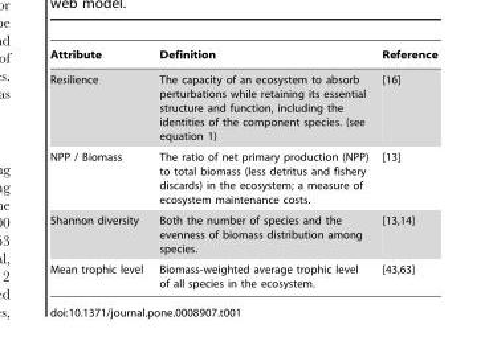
<table><thead><tr><td>Attribute</td><td>Definition</td><td>Reference</td></tr></thead><tbody><tr><td>Resilience</td><td>The capacity of an ecosystem to absorb perturbations while retaining its essential structure and function, including the identities of the component species. (see equation 1)</td><td>[16]</td></tr><tr><td>NPP / Biomass</td><td>The ratio of net primary production (NPP) to total biomass (less detritus and fishery discards) in the ecosystem; a measure of ecosystem maintenance costs.</td><td>[13]</td></tr><tr><td>Shannon diversity</td><td>Both the number of species and the evenness of biomass distribution among species.</td><td>[13,14]</td></tr><tr><td>Mean trophic level</td><td>Biomass-weighted average trophic level of all species in the ecosystem.</td><td>[43,63]</td></tr></tbody></table>